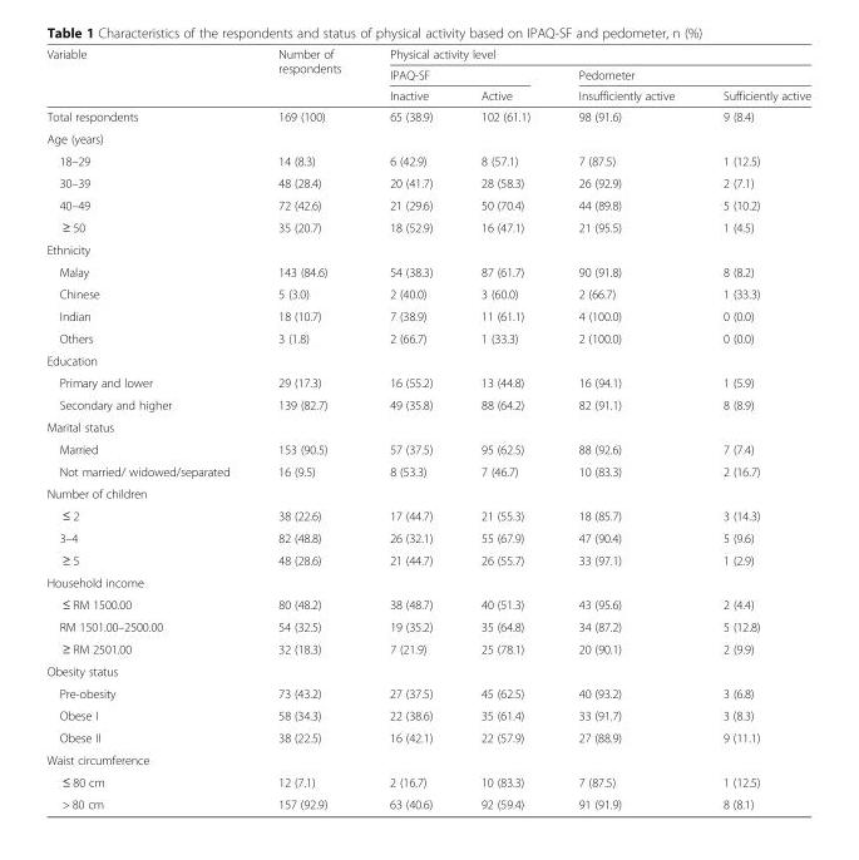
<table><thead><tr><td rowspan="3">Variable</td><td rowspan="3">Number of respondents</td><td colspan="4">Physical activity level</td></tr><tr><td colspan="2">IPAQ-SF</td><td colspan="2">Pedometer</td></tr><tr><td>Inactive</td><td>Active</td><td>Insufficiently active</td><td>Sufficiently active</td></tr></thead><tbody><tr><td>Total respondents</td><td>169 (100)</td><td>65 (38.9)</td><td>102 (61.1)</td><td>98 (91.6)</td><td>9 (8.4)</td></tr><tr><td colspan="6">Age (years)</td></tr><tr><td>18–29</td><td>14 (8.3)</td><td>6 (42.9)</td><td>8 (57.1)</td><td>7 (87.5)</td><td>1 (12.5)</td></tr><tr><td>30–39</td><td>48 (28.4)</td><td>20 (41.7)</td><td>28 (58.3)</td><td>26 (92.9)</td><td>2 (7.1)</td></tr><tr><td>40–49</td><td>72 (42.6)</td><td>21 (29.6)</td><td>50 (70.4)</td><td>44 (89.8)</td><td>5 (10.2)</td></tr><tr><td>≥ 50</td><td>35 (20.7)</td><td>18 (52.9)</td><td>16 (47.1)</td><td>21 (95.5)</td><td>1 (4.5)</td></tr><tr><td colspan="6">Ethnicity</td></tr><tr><td>Malay</td><td>143 (84.6)</td><td>54 (38.3)</td><td>87 (61.7)</td><td>90 (91.8)</td><td>8 (8.2)</td></tr><tr><td>Chinese</td><td>5 (3.0)</td><td>2 (40.0)</td><td>3 (60.0)</td><td>2 (66.7)</td><td>1 (33.3)</td></tr><tr><td>Indian</td><td>18 (10.7)</td><td>7 (38.9)</td><td>11 (61.1)</td><td>4 (100.0)</td><td>0 (0.0)</td></tr><tr><td>Others</td><td>3 (1.8)</td><td>2 (66.7)</td><td>1 (33.3)</td><td>2 (100.0)</td><td>0 (0.0)</td></tr><tr><td colspan="6">Education</td></tr><tr><td>Primary and lower</td><td>29 (17.3)</td><td>16 (55.2)</td><td>13 (44.8)</td><td>16 (94.1)</td><td>1 (5.9)</td></tr><tr><td>Secondary and higher</td><td>139 (82.7)</td><td>49 (35.8)</td><td>88 (64.2)</td><td>82 (91.1)</td><td>8 (8.9)</td></tr><tr><td colspan="6">Marital status</td></tr><tr><td>Married</td><td>153 (90.5)</td><td>57 (37.5)</td><td>95 (62.5)</td><td>88 (92.6)</td><td>7 (7.4)</td></tr><tr><td>Not married/ widowed/separated</td><td>16 (9.5)</td><td>8 (53.3)</td><td>7 (46.7)</td><td>10 (83.3)</td><td>2 (16.7)</td></tr><tr><td colspan="6">Number of children</td></tr><tr><td>≤ 2</td><td>38 (22.6)</td><td>17 (44.7)</td><td>21 (55.3)</td><td>18 (85.7)</td><td>3 (14.3)</td></tr><tr><td>3–4</td><td>82 (48.8)</td><td>26 (32.1)</td><td>55 (67.9)</td><td>47 (90.4)</td><td>5 (9.6)</td></tr><tr><td>≥ 5</td><td>48 (28.6)</td><td>21 (44.7)</td><td>26 (55.7)</td><td>33 (97.1)</td><td>1 (2.9)</td></tr><tr><td colspan="6">Household income</td></tr><tr><td>≤ RM 1500.00</td><td>80 (48.2)</td><td>38 (48.7)</td><td>40 (51.3)</td><td>43 (95.6)</td><td>2 (4.4)</td></tr><tr><td>RM 1501.00–2500.00</td><td>54 (32.5)</td><td>19 (35.2)</td><td>35 (64.8)</td><td>34 (87.2)</td><td>5 (12.8)</td></tr><tr><td>≥ RM 2501.00</td><td>32 (18.3)</td><td>7 (21.9)</td><td>25 (78.1)</td><td>20 (90.1)</td><td>2 (9.9)</td></tr><tr><td colspan="6">Obesity status</td></tr><tr><td>Pre-obesity</td><td>73 (43.2)</td><td>27 (37.5)</td><td>45 (62.5)</td><td>40 (93.2)</td><td>3 (6.8)</td></tr><tr><td>Obese I</td><td>58 (34.3)</td><td>22 (38.6)</td><td>35 (61.4)</td><td>33 (91.7)</td><td>3 (8.3)</td></tr><tr><td>Obese II</td><td>38 (22.5)</td><td>16 (42.1)</td><td>22 (57.9)</td><td>27 (88.9)</td><td>9 (11.1)</td></tr><tr><td colspan="6">Waist circumference</td></tr><tr><td>≤ 80 cm</td><td>12 (7.1)</td><td>2 (16.7)</td><td>10 (83.3)</td><td>7 (87.5)</td><td>1 (12.5)</td></tr><tr><td>&gt; 80 cm</td><td>157 (92.9)</td><td>63 (40.6)</td><td>92 (59.4)</td><td>91 (91.9)</td><td>8 (8.1)</td></tr></tbody></table>